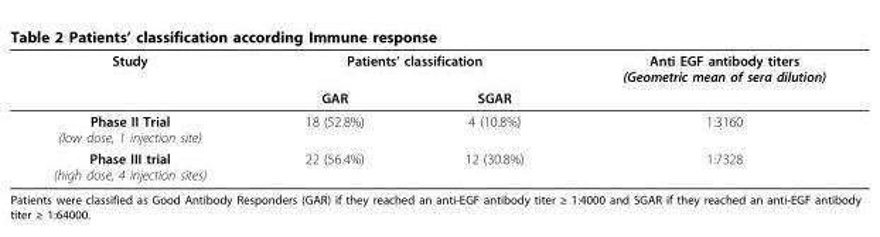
<table><thead><tr><td rowspan="2">Study</td><td colspan="2">Patients’ classification</td><td rowspan="2">Anti EGF antibody titers (Geometric mean of sera dilution)</td></tr><tr><td>GAR</td><td>SGAR</td></tr></thead><tbody><tr><td>Phase II Trial (low dose, 1 injection site)</td><td>18 (52.8%)</td><td>4 (10.8%)</td><td>1:3160</td></tr><tr><td>Phase III trial (high dose, 4 injection sites)</td><td>22 (56.4%)</td><td>12 (30.8%)</td><td>1:7328</td></tr></tbody></table>